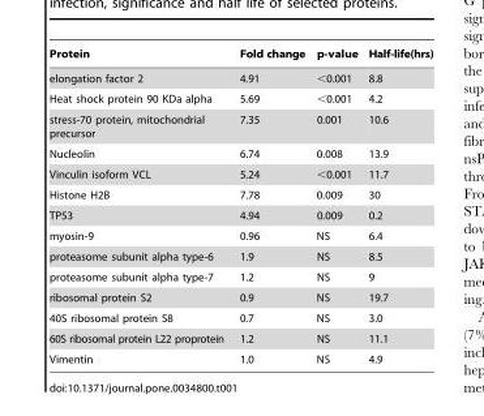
<table><thead><tr><td>Protein</td><td>Fold change</td><td>p-value</td><td>Half-life(hrs)</td></tr></thead><tbody><tr><td>elongation factor 2</td><td>4.91</td><td>&lt;0.001</td><td>8.8</td></tr><tr><td>Heat shock protein 90 KDa alpha</td><td>5.69</td><td>&lt;0.001</td><td>4.2</td></tr><tr><td>stress-70 protein, mitochondrial precursor</td><td>7.35</td><td>0.001</td><td>10.6</td></tr><tr><td>Nucleolin</td><td>6.74</td><td>0.008</td><td>13.9</td></tr><tr><td>Vinculin isoform VCL</td><td>5.24</td><td>&lt;0.001</td><td>11.7</td></tr><tr><td>Histone H2B</td><td>7.78</td><td>0.009</td><td>30</td></tr><tr><td>TP53</td><td>4.94</td><td>0.009</td><td>0.2</td></tr><tr><td>myosin-9</td><td>0.96</td><td>NS</td><td>6.4</td></tr><tr><td>proteasome subunit alpha type-6</td><td>1.9</td><td>NS</td><td>8.5</td></tr><tr><td>proteasome subunit alpha type-7</td><td>1.2</td><td>NS</td><td>9</td></tr><tr><td>ribosomal protein S2</td><td>0.9</td><td>NS</td><td>19.7</td></tr><tr><td>40S ribosomal protein S8</td><td>0.7</td><td>NS</td><td>3.0</td></tr><tr><td>60S ribosomal protein L22 proprotein</td><td>1.2</td><td>NS</td><td>11.1</td></tr><tr><td>Vimentin</td><td>1.0</td><td>NS</td><td>4.9</td></tr></tbody></table>